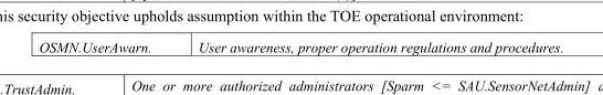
<table><tbody><tr><td>OSMN.UserAwarn.</td><td>User awareness, proper operation regulations and procedures.</td></tr></tbody></table>